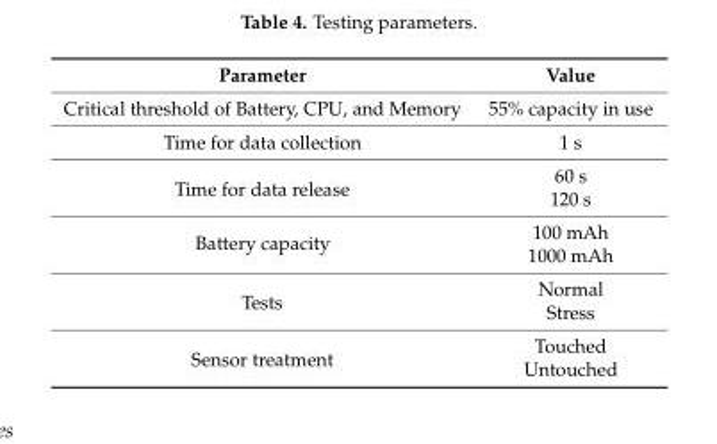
<table><thead><tr><td>Parameter</td><td>Value</td></tr></thead><tbody><tr><td>Critical threshold of Battery, CPU, and Memory</td><td>55% capacity in use</td></tr><tr><td>Time for data collection</td><td>1 s</td></tr><tr><td rowspan="2">Time for data release</td><td>60 s</td></tr><tr><td>120 s</td></tr><tr><td rowspan="2">Battery capacity</td><td>100 mAh</td></tr><tr><td>1000 mAh</td></tr><tr><td rowspan="2">Tests</td><td>Normal</td></tr><tr><td>Stress</td></tr><tr><td rowspan="2">Sensor treatment</td><td>Touched</td></tr><tr><td>Untouched</td></tr></tbody></table>